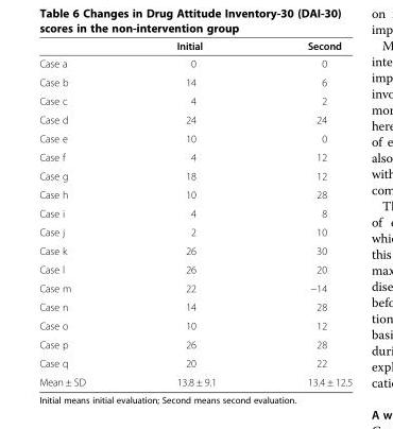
<table><thead><tr><td></td><td>Initial</td><td>Second</td></tr></thead><tbody><tr><td>Case a</td><td>0</td><td>0</td></tr><tr><td>Case b</td><td>14</td><td>6</td></tr><tr><td>Case c</td><td>4</td><td>2</td></tr><tr><td>Case d</td><td>24</td><td>24</td></tr><tr><td>Case e</td><td>10</td><td>0</td></tr><tr><td>Case f</td><td>4</td><td>12</td></tr><tr><td>Case g</td><td>18</td><td>12</td></tr><tr><td>Case h</td><td>10</td><td>28</td></tr><tr><td>Case i</td><td>4</td><td>8</td></tr><tr><td>Case j</td><td>2</td><td>10</td></tr><tr><td>Case k</td><td>26</td><td>30</td></tr><tr><td>Case l</td><td>26</td><td>20</td></tr><tr><td>Case m</td><td>22</td><td>−14</td></tr><tr><td>Case n</td><td>14</td><td>28</td></tr><tr><td>Case o</td><td>10</td><td>12</td></tr><tr><td>Case p</td><td>26</td><td>28</td></tr><tr><td>Case q</td><td>20</td><td>22</td></tr><tr><td>Mean ± SD</td><td>13.8 ± 9.1</td><td>13.4 ± 12.5</td></tr></tbody></table>